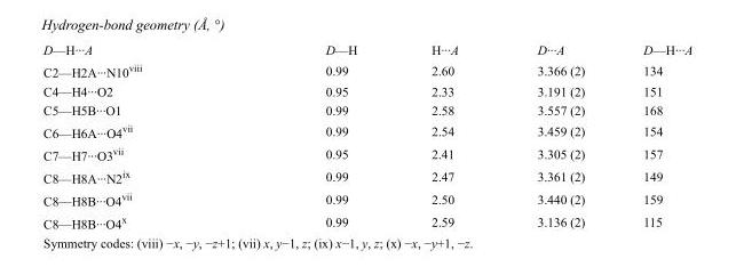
<table><tbody><tr><td>D—H···A</td><td>D—H</td><td>H···A</td><td>D···A</td><td>D—H···A</td></tr><tr><td>C2—H2A···N10<sup>viii</sup></td><td>0.99</td><td>2.60</td><td>3.366 (2)</td><td>134</td></tr><tr><td>C4—H4···O2</td><td>0.95</td><td>2.33</td><td>3.191 (2)</td><td>151</td></tr><tr><td>C5—H5B···O1</td><td>0.99</td><td>2.58</td><td>3.557 (2)</td><td>168</td></tr><tr><td>C6—H6A···O4<sup>vii</sup></td><td>0.99</td><td>2.54</td><td>3.459 (2)</td><td>154</td></tr><tr><td>C7—H7···O3<sup>vii</sup></td><td>0.95</td><td>2.41</td><td>3.305 (2)</td><td>157</td></tr><tr><td>C8—H8A···N2<sup>ix</sup></td><td>0.99</td><td>2.47</td><td>3.361 (2)</td><td>149</td></tr><tr><td>C8—H8B···O4<sup>vii</sup></td><td>0.99</td><td>2.50</td><td>3.440 (2)</td><td>159</td></tr><tr><td>C8—H8B···O4<sup>x</sup></td><td>0.99</td><td>2.59</td><td>3.136 (2)</td><td>115</td></tr></tbody></table>